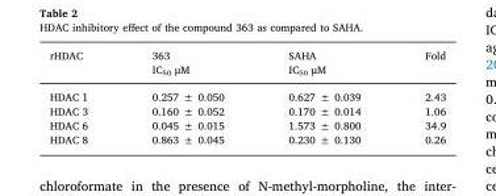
<table><thead><tr><td>rHDAC</td><td>363 IC<sub>50</sub> μM</td><td>SAHA IC<sub>50</sub> μM</td><td>Fold</td></tr></thead><tbody><tr><td>HDAC 1</td><td>0.257 ± 0.050</td><td>0.627 ± 0.039</td><td>2.43</td></tr><tr><td>HDAC 3</td><td>0.160 ± 0.052</td><td>0.170 ± 0.014</td><td>1.06</td></tr><tr><td>HDAC 6</td><td>0.045 ± 0.015</td><td>1.573 ± 0.800</td><td>34.9</td></tr><tr><td>HDAC 8</td><td>0.863 ± 0.045</td><td>0.230 ± 0.130</td><td>0.26</td></tr></tbody></table>